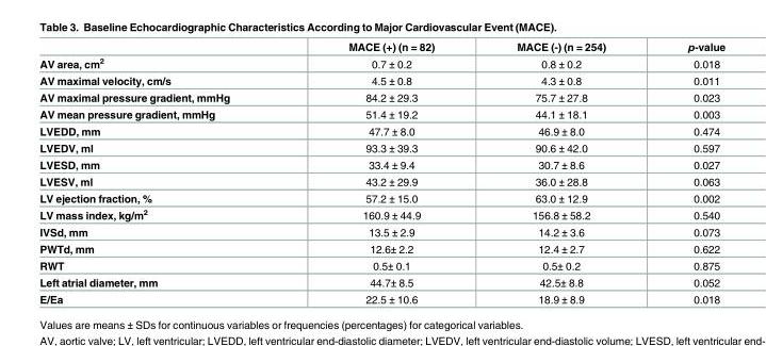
<table><thead><tr><td></td><td>MACE (+) (n = 82)</td><td>MACE (-) (n = 254)</td><td>p-value</td></tr></thead><tbody><tr><td>AV area, cm<sup>2</sup></td><td>0.7 ± 0.2</td><td>0.8 ± 0.2</td><td>0.018</td></tr><tr><td>AV maximal velocity, cm/s</td><td>4.5 ± 0.8</td><td>4.3 ± 0.8</td><td>0.011</td></tr><tr><td>AV maximal pressure gradient, mmHg</td><td>84.2 ± 29.3</td><td>75.7 ± 27.8</td><td>0.023</td></tr><tr><td>AV mean pressure gradient, mmHg</td><td>51.4 ± 19.2</td><td>44.1 ± 18.1</td><td>0.003</td></tr><tr><td>LVEDD, mm</td><td>47.7 ± 8.0</td><td>46.9 ± 8.0</td><td>0.474</td></tr><tr><td>LVEDV, ml</td><td>93.3 ± 39.3</td><td>90.6 ± 42.0</td><td>0.597</td></tr><tr><td>LVESD, mm</td><td>33.4 ± 9.4</td><td>30.7 ± 8.6</td><td>0.027</td></tr><tr><td>LVESV, ml</td><td>43.2 ± 29.9</td><td>36.0 ± 28.8</td><td>0.063</td></tr><tr><td>LV ejection fraction, %</td><td>57.2 ± 15.0</td><td>63.0 ± 12.9</td><td>0.002</td></tr><tr><td>LV mass index, kg/m<sup>2</sup></td><td>160.9 ± 44.9</td><td>156.8 ± 58.2</td><td>0.540</td></tr><tr><td>IVSd, mm</td><td>13.5 ± 2.9</td><td>14.2 ± 3.6</td><td>0.073</td></tr><tr><td>PWTd, mm</td><td>12.6± 2.2</td><td>12.4 ± 2.7</td><td>0.622</td></tr><tr><td>RWT</td><td>0.5± 0.1</td><td>0.5± 0.2</td><td>0.875</td></tr><tr><td>Left atrial diameter, mm</td><td>44.7± 8.5</td><td>42.5± 8.8</td><td>0.052</td></tr><tr><td>E/Ea</td><td>22.5 ± 10.6</td><td>18.9 ± 8.9</td><td>0.018</td></tr></tbody></table>